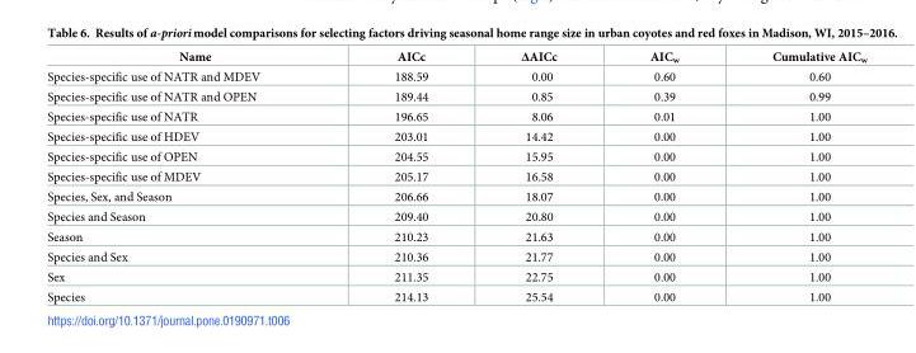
<table><thead><tr><td>Name</td><td>AICc</td><td>ΔAICc</td><td>AIC<sub>w</sub></td><td>Cumulative AIC<sub>w</sub></td></tr></thead><tbody><tr><td>Species-specific use of NATR and MDEV</td><td>188.59</td><td>0.00</td><td>0.60</td><td>0.60</td></tr><tr><td>Species-specific use of NATR and OPEN</td><td>189.44</td><td>0.85</td><td>0.39</td><td>0.99</td></tr><tr><td>Species-specific use of NATR</td><td>196.65</td><td>8.06</td><td>0.01</td><td>1.00</td></tr><tr><td>Species-specific use of HDEV</td><td>203.01</td><td>14.42</td><td>0.00</td><td>1.00</td></tr><tr><td>Species-specific use of OPEN</td><td>204.55</td><td>15.95</td><td>0.00</td><td>1.00</td></tr><tr><td>Species-specific use of MDEV</td><td>205.17</td><td>16.58</td><td>0.00</td><td>1.00</td></tr><tr><td>Species, Sex, and Season</td><td>206.66</td><td>18.07</td><td>0.00</td><td>1.00</td></tr><tr><td>Species and Season</td><td>209.40</td><td>20.80</td><td>0.00</td><td>1.00</td></tr><tr><td>Season</td><td>210.23</td><td>21.63</td><td>0.00</td><td>1.00</td></tr><tr><td>Species and Sex</td><td>210.36</td><td>21.77</td><td>0.00</td><td>1.00</td></tr><tr><td>Sex</td><td>211.35</td><td>22.75</td><td>0.00</td><td>1.00</td></tr><tr><td>Species</td><td>214.13</td><td>25.54</td><td>0.00</td><td>1.00</td></tr></tbody></table>